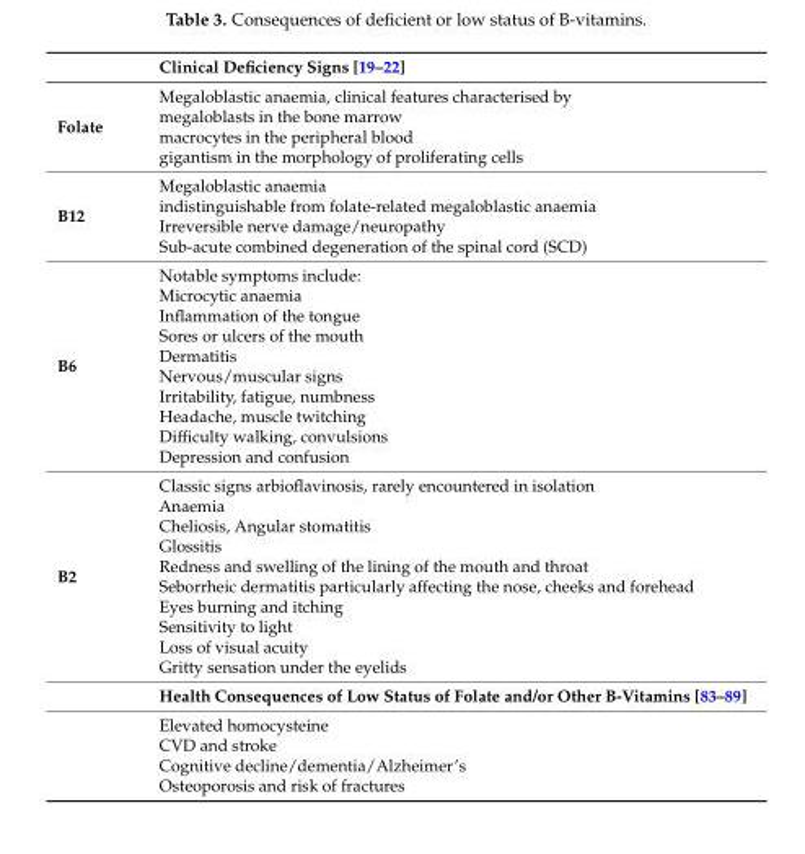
<table><thead><tr><td></td><td>Clinical Deficiency Signs [19–22]</td></tr></thead><tbody><tr><td>Folate</td><td>Megaloblastic anaemia, clinical features characterised by megaloblasts in the bone marrow macrocytes in the peripheral blood gigantism in the morphology of proliferating cells</td></tr><tr><td>B12</td><td>Megaloblastic anaemia indistinguishable from folate-related megaloblastic anaemia Irreversible nerve damage/neuropathy Sub-acute combined degeneration of the spinal cord (SCD)</td></tr><tr><td>B6</td><td>Notable symptoms include: Microcytic anaemia Inflammation of the tongue Sores or ulcers of the mouth Dermatitis Nervous/muscular signs Irritability, fatigue, numbness Headache, muscle twitching Difficulty walking, convulsions Depression and confusion</td></tr><tr><td rowspan="3">B2</td><td>Classic signs arbioflavinosis, rarely encountered in isolation Anaemia Cheliosis, Angular stomatitis Glossitis Redness and swelling of the lining of the mouth and throat Seborrheic dermatitis particularly affecting the nose, cheeks and forehead Eyes burning and itching Sensitivity to light Loss of visual acuity Gritty sensation under the eyelids</td></tr><tr><td>Health Consequences of Low Status of Folate and/or Other B-Vitamins [83–89]</td></tr><tr><td>Elevated homocysteine CVD and stroke Cognitive decline/dementia/Alzheimer’s Osteoporosis and risk of fractures</td></tr></tbody></table>